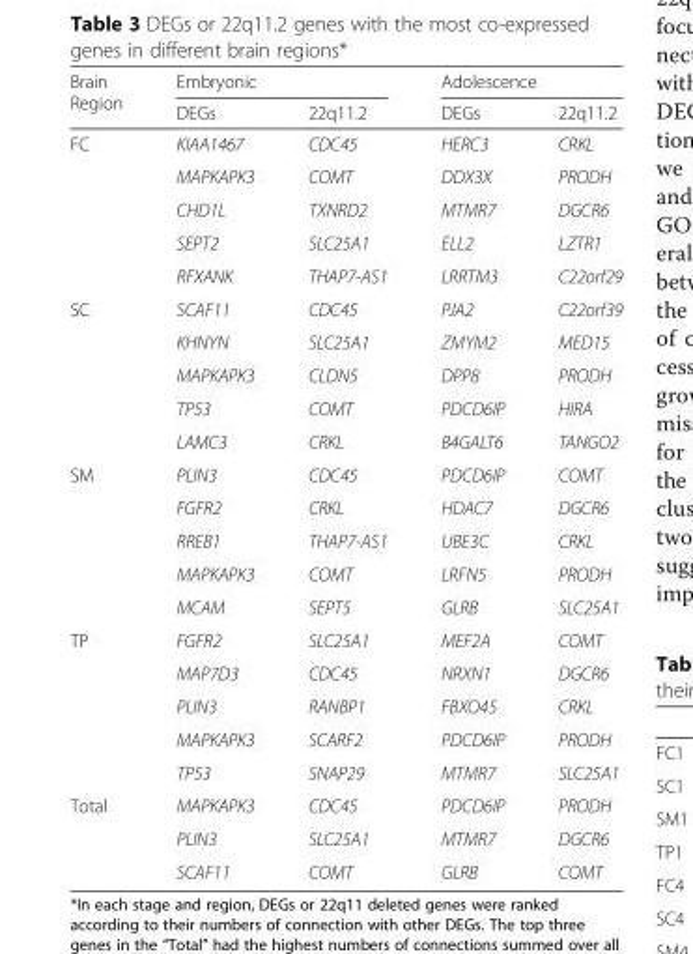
<table><thead><tr><td rowspan="2">Brain Region</td><td colspan="2">Embryonic</td><td colspan="2">Adolescence</td></tr><tr><td>DEGs</td><td>22q11.2</td><td>DEGs</td><td>22q11.2</td></tr></thead><tbody><tr><td rowspan="5">FC</td><td>KIAA1467</td><td>CDC45</td><td>HERC3</td><td>CRKL</td></tr><tr><td>MAPKAPK3</td><td>COMT</td><td>DDX3X</td><td>PRODH</td></tr><tr><td>CHD1L</td><td>TXNRD2</td><td>MTMR7</td><td>DGCR6</td></tr><tr><td>SEPT2</td><td>SLC25A1</td><td>ELL2</td><td>LZTR1</td></tr><tr><td>RFXANK</td><td>THAP7-AS1</td><td>LRRTM3</td><td>C22orf29</td></tr><tr><td rowspan="5">SC</td><td>SCAF11</td><td>CDC45</td><td>PJA2</td><td>C22orf39</td></tr><tr><td>KHNYN</td><td>SLC25A1</td><td>ZMYM2</td><td>MED15</td></tr><tr><td>MAPKAPK3</td><td>CLDN5</td><td>DPP8</td><td>PRODH</td></tr><tr><td>TP53</td><td>COMT</td><td>PDCD6IP</td><td>HIRA</td></tr><tr><td>LAMC3</td><td>CRKL</td><td>B4GALT6</td><td>TANGO2</td></tr><tr><td rowspan="5">SM</td><td>PLIN3</td><td>CDC45</td><td>PDCD6IP</td><td>COMT</td></tr><tr><td>FGFR2</td><td>CRKL</td><td>HDAC7</td><td>DGCR6</td></tr><tr><td>RREB1</td><td>THAP7-AS1</td><td>UBE3C</td><td>CRKL</td></tr><tr><td>MAPKAPK3</td><td>COMT</td><td>LRFN5</td><td>PRODH</td></tr><tr><td>MCAM</td><td>SEPT5</td><td>GLRB</td><td>SLC25A1</td></tr><tr><td rowspan="5">TP</td><td>FGFR2</td><td>SLC25A1</td><td>MEF2A</td><td>COMT</td></tr><tr><td>MAP7D3</td><td>CDC45</td><td>NRXN1</td><td>DGCR6</td></tr><tr><td>PLIN3</td><td>RANBP1</td><td>FBXO45</td><td>CRKL</td></tr><tr><td>MAPKAPK3</td><td>SCARF2</td><td>PDCD6IP</td><td>PRODH</td></tr><tr><td>TP53</td><td>SNAP29</td><td>MTMR7</td><td>SLC25A1</td></tr><tr><td rowspan="3">Total</td><td>MAPKAPK3</td><td>CDC45</td><td>PDCD6IP</td><td>PRODH</td></tr><tr><td>PLIN3</td><td>SLC25A1</td><td>MTMR7</td><td>DGCR6</td></tr><tr><td>SCAF11</td><td>COMT</td><td>GLRB</td><td>COMT</td></tr></tbody></table>